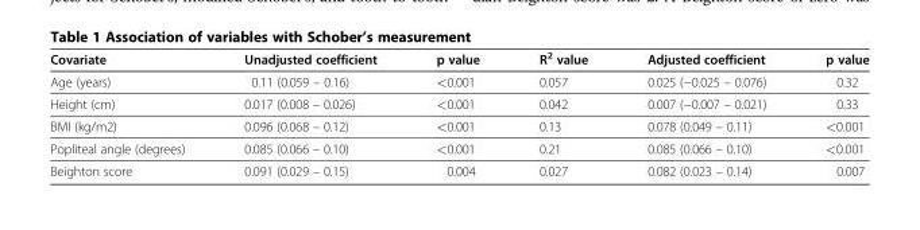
<table><thead><tr><td>Covariate</td><td>Unadjusted coefficient</td><td>p value</td><td>R<sup>2</sup> value</td><td>Adjusted coefficient</td><td>p value</td></tr></thead><tbody><tr><td>Age (years)</td><td>0.11 (0.059 – 0.16)</td><td>&lt;0.001</td><td>0.057</td><td>0.025 (−0.025 – 0.076)</td><td>0.32</td></tr><tr><td>Height (cm)</td><td>0.017 (0.008 – 0.026)</td><td>&lt;0.001</td><td>0.042</td><td>0.007 (−0.007 – 0.021)</td><td>0.33</td></tr><tr><td>BMI (kg/m2)</td><td>0.096 (0.068 – 0.12)</td><td>&lt;0.001</td><td>0.13</td><td>0.078 (0.049 – 0.11)</td><td>&lt;0.001</td></tr><tr><td>Popliteal angle (degrees)</td><td>0.085 (0.066 – 0.10)</td><td>&lt;0.001</td><td>0.21</td><td>0.085 (0.066 – 0.10)</td><td>&lt;0.001</td></tr><tr><td>Beighton score</td><td>0.091 (0.029 – 0.15)</td><td>0.004</td><td>0.027</td><td>0.082 (0.023 – 0.14)</td><td>0.007</td></tr></tbody></table>